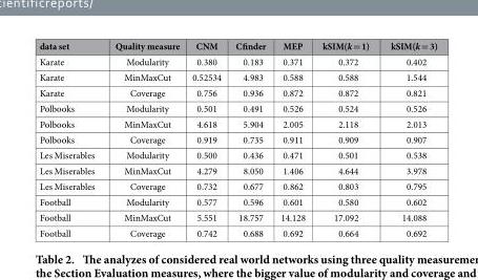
<table><thead><tr><td>data set</td><td>Quality measure</td><td>CNM</td><td>Cfinder</td><td>MEP</td><td>kSIM(k = 1)</td><td>kSIM(k = 3)</td></tr></thead><tbody><tr><td>Karate</td><td>Modularity</td><td>0.380</td><td>0.183</td><td>0.371</td><td>0.372</td><td>0.402</td></tr><tr><td>Karate</td><td>MinMaxCut</td><td>0.52534</td><td>4.983</td><td>0.588</td><td>0.588</td><td>1.544</td></tr><tr><td>Karate</td><td>Coverage</td><td>0.756</td><td>0.936</td><td>0.872</td><td>0.872</td><td>0.821</td></tr><tr><td>Polbooks</td><td>Modularity</td><td>0.501</td><td>0.491</td><td>0.526</td><td>0.524</td><td>0.526</td></tr><tr><td>Polbooks</td><td>MinMaxCut</td><td>4.618</td><td>5.904</td><td>2.005</td><td>2.118</td><td>2.013</td></tr><tr><td>Polbooks</td><td>Coverage</td><td>0.919</td><td>0.735</td><td>0.911</td><td>0.909</td><td>0.907</td></tr><tr><td>Les Miserables</td><td>Modularity</td><td>0.500</td><td>0.436</td><td>0.471</td><td>0.501</td><td>0.538</td></tr><tr><td>Les Miserables</td><td>MinMaxCut</td><td>4.279</td><td>8.050</td><td>1.406</td><td>4.644</td><td>3.978</td></tr><tr><td>Les Miserables</td><td>Coverage</td><td>0.732</td><td>0.677</td><td>0.862</td><td>0.803</td><td>0.795</td></tr><tr><td>Football</td><td>Modularity</td><td>0.577</td><td>0.596</td><td>0.601</td><td>0.580</td><td>0.602</td></tr><tr><td>Football</td><td>MinMaxCut</td><td>5.551</td><td>18.757</td><td>14.128</td><td>17.092</td><td>14.088</td></tr><tr><td>Football</td><td>Coverage</td><td>0.742</td><td>0.688</td><td>0.692</td><td>0.664</td><td>0.692</td></tr></tbody></table>